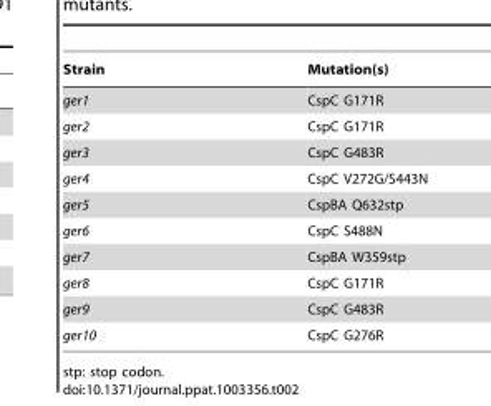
<table><thead><tr><td>Strain</td><td>Mutation(s)</td></tr></thead><tbody><tr><td>ger1</td><td>CspC G171R</td></tr><tr><td>ger2</td><td>CspC G171R</td></tr><tr><td>ger3</td><td>CspC G483R</td></tr><tr><td>ger4</td><td>CspC V272G/S443N</td></tr><tr><td>ger5</td><td>CspBA Q632stp</td></tr><tr><td>ger6</td><td>CspC S488N</td></tr><tr><td>ger7</td><td>CspBA W359stp</td></tr><tr><td>ger8</td><td>CspC G171R</td></tr><tr><td>ger9</td><td>CspC G483R</td></tr><tr><td>ger10</td><td>CspC G276R</td></tr></tbody></table>